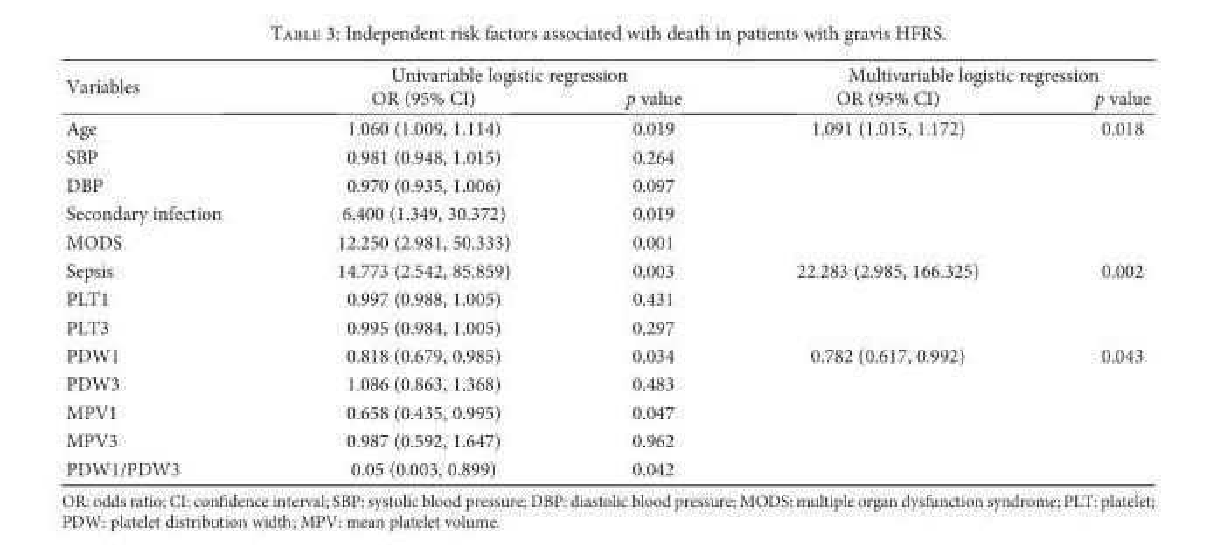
<table><thead><tr><td rowspan="2">Variables</td><td colspan="2">Univariable logistic regression</td><td colspan="2">Multivariable logistic regression</td></tr><tr><td>OR (95% CI)</td><td>p value</td><td>OR (95% CI)</td><td>p value</td></tr></thead><tbody><tr><td>Age</td><td>1.060 (1.009, 1.114)</td><td>0.019</td><td>1.091 (1.015, 1.172)</td><td>0.018</td></tr><tr><td>SBP</td><td>0.981 (0.948, 1.015)</td><td>0.264</td><td></td><td></td></tr><tr><td>DBP</td><td>0.970 (0.935, 1.006)</td><td>0.097</td><td></td><td></td></tr><tr><td>Secondary infection</td><td>6.400 (1.349, 30.372)</td><td>0.019</td><td></td><td></td></tr><tr><td>MODS</td><td>12.250 (2.981, 50.333)</td><td>0.001</td><td></td><td></td></tr><tr><td>Sepsis</td><td>14.773 (2.542, 85.859)</td><td>0.003</td><td>22.283 (2.985, 166.325)</td><td>0.002</td></tr><tr><td>PLT1</td><td>0.997 (0.988, 1.005)</td><td>0.431</td><td></td><td></td></tr><tr><td>PLT3</td><td>0.995 (0.984, 1.005)</td><td>0.297</td><td></td><td></td></tr><tr><td>PDW1</td><td>0.818 (0.679, 0.985)</td><td>0.034</td><td>0.782 (0.617, 0.992)</td><td>0.043</td></tr><tr><td>PDW3</td><td>1.086 (0.863, 1.368)</td><td>0.483</td><td></td><td></td></tr><tr><td>MPV1</td><td>0.658 (0.435, 0.995)</td><td>0.047</td><td></td><td></td></tr><tr><td>MPV3</td><td>0.987 (0.592, 1.647)</td><td>0.962</td><td></td><td></td></tr><tr><td>PDW1/PDW3</td><td>0.05 (0.003, 0.899)</td><td>0.042</td><td></td><td></td></tr></tbody></table>